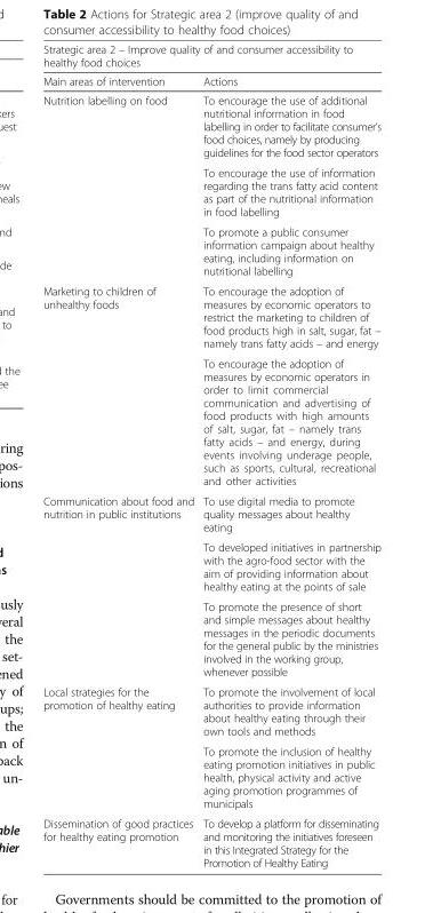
<table><thead><tr><td colspan="2">Strategic area 2 – Improve quality of and consumer accessibility to healthy food choices</td></tr><tr><td>Main areas of intervention</td><td>Actions</td></tr></thead><tbody><tr><td rowspan="3">Nutrition labelling on food</td><td>To encourage the use of additional nutritional information in food labelling in order to facilitate consumer’s food choices, namely by producing guidelines for the food sector operators</td></tr><tr><td>To encourage the use of information regarding the trans fatty acid content as part of the nutritional information in food labelling</td></tr><tr><td>To promote a public consumer information campaign about healthy eating, including information on nutritional labelling</td></tr><tr><td rowspan="2">Marketing to children of unhealthy foods</td><td>To encourage the adoption of measures by economic operators to restrict the marketing to children of food products high in salt, sugar, fat – namely trans fatty acids – and energy</td></tr><tr><td>To encourage the adoption of measures by economic operators in order to limit commercial communication and advertising of food products with high amounts of salt, sugar, fat – namely trans fatty acids – and energy, during events involving underage people, such as sports, cultural, recreational and other activities</td></tr><tr><td rowspan="3">Communication about food and nutrition in public institutions</td><td>To use digital media to promote quality messages about healthy eating</td></tr><tr><td>To developed initiatives in partnership with the agro-food sector with the aim of providing information about healthy eating at the points of sale</td></tr><tr><td>To promote the presence of short and simple messages about healthy messages in the periodic documents for the general public by the ministries involved in the working group, whenever possible</td></tr><tr><td rowspan="2">Local strategies for the promotion of healthy eating</td><td>To promote the involvement of local authorities to provide information about healthy eating through their own tools and methods</td></tr><tr><td>To promote the inclusion of healthy eating promotion initiatives in public health, physical activity and active aging promotion programmes of municipals</td></tr><tr><td>Dissemination of good practices for healthy eating promotion</td><td>To develop a platform for disseminating and monitoring the initiatives foreseen in this Integrated Strategy for the Promotion of Healthy Eating</td></tr></tbody></table>